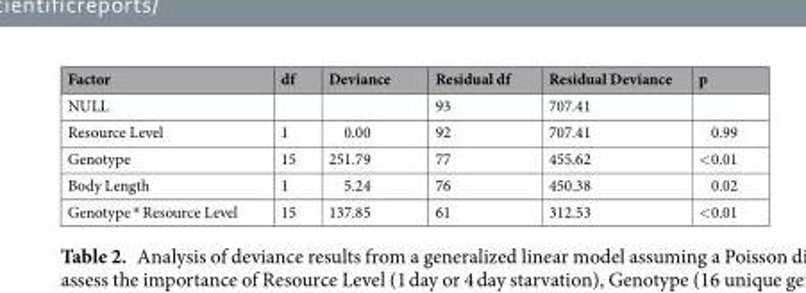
<table><thead><tr><td>Factor</td><td>df</td><td>Deviance</td><td>Residual df</td><td>Residual Deviance</td><td>p</td></tr></thead><tbody><tr><td>NULL</td><td></td><td></td><td>93</td><td>707.41</td><td></td></tr><tr><td>Resource Level</td><td>1</td><td>0.00</td><td>92</td><td>707.41</td><td>0.99</td></tr><tr><td>Genotype</td><td>15</td><td>251.79</td><td>77</td><td>455.62</td><td>&lt;0.01</td></tr><tr><td>Body Length</td><td>1</td><td>5.24</td><td>76</td><td>450.38</td><td>0.02</td></tr><tr><td>Genotype * Resource Level</td><td>15</td><td>137.85</td><td>61</td><td>312.53</td><td>&lt;0.01</td></tr></tbody></table>